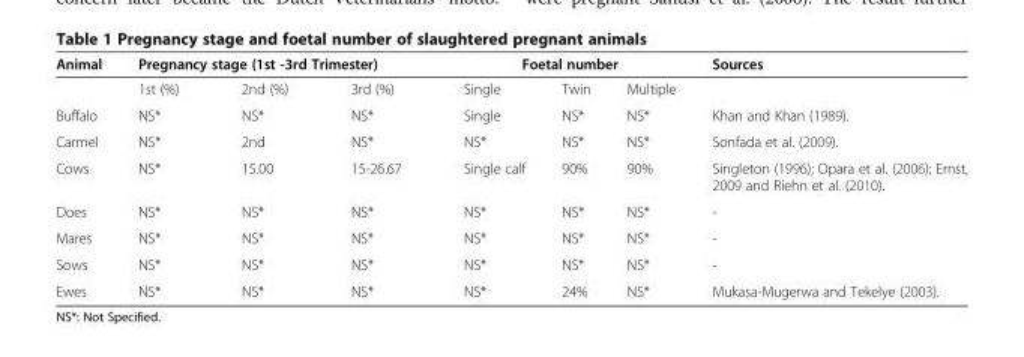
<table><thead><tr><td rowspan="2">Animal</td><td colspan="3">Pregnancy stage (1st -3rd Trimester)</td><td colspan="3">Foetal number</td><td rowspan="2">Sources</td></tr><tr><td>1st (%)</td><td>2nd (%)</td><td>3rd (%)</td><td>Single</td><td>Twin</td><td>Multiple</td></tr></thead><tbody><tr><td>Buffalo</td><td>NS*</td><td>NS*</td><td>NS*</td><td>Single</td><td>NS*</td><td>NS*</td><td>Khan and Khan (1989).</td></tr><tr><td>Carmel</td><td>NS*</td><td>2nd</td><td>NS*</td><td>NS*</td><td>NS*</td><td>NS*</td><td>Sonfada et al. (2009).</td></tr><tr><td>Cows</td><td>NS*</td><td>15.00</td><td>15-26.67</td><td>Single calf</td><td>90%</td><td>90%</td><td>Singleton (1996); Opara et al. (2006); Ernst, 2009 and Riehn et al. (2010).</td></tr><tr><td>Does</td><td>NS*</td><td>NS*</td><td>NS*</td><td>NS*</td><td>NS*</td><td>NS*</td><td>-</td></tr><tr><td>Mares</td><td>NS*</td><td>NS*</td><td>NS*</td><td>NS*</td><td>NS*</td><td>NS*</td><td>-</td></tr><tr><td>Sows</td><td>NS*</td><td>NS*</td><td>NS*</td><td>NS*</td><td>NS*</td><td>NS*</td><td>-</td></tr><tr><td>Ewes</td><td>NS*</td><td>NS*</td><td>NS*</td><td>NS*</td><td>24%</td><td>NS*</td><td>Mukasa-Mugerwa and Tekelye (2003).</td></tr></tbody></table>